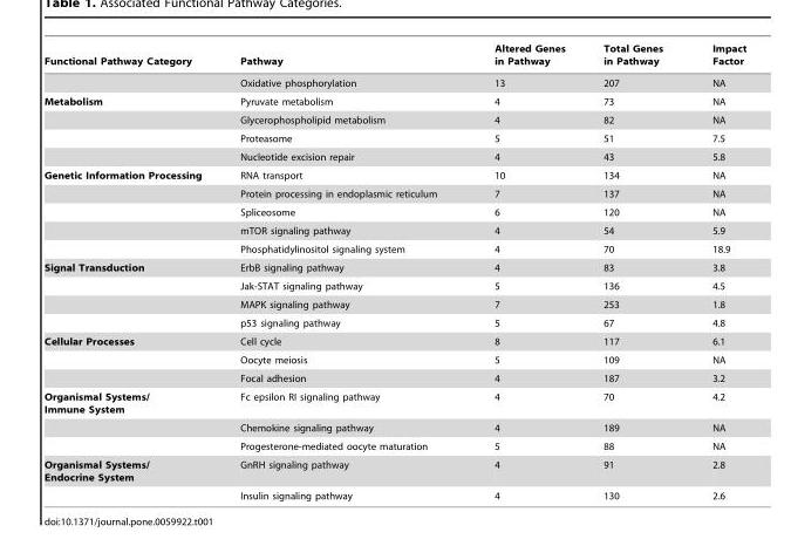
<table><thead><tr><td>Functional Pathway Category</td><td>Pathway</td><td>Altered Genes in Pathway</td><td>Total Genes in Pathway</td><td>Impact Factor</td></tr></thead><tbody><tr><td></td><td>Oxidative phosphorylation</td><td>13</td><td>207</td><td>NA</td></tr><tr><td rowspan="4">Metabolism</td><td>Pyruvate metabolism</td><td>4</td><td>73</td><td>NA</td></tr><tr><td>Glycerophospholipid metabolism</td><td>4</td><td>82</td><td>NA</td></tr><tr><td>Proteasome</td><td>5</td><td>51</td><td>7.5</td></tr><tr><td>Nucleotide excision repair</td><td>4</td><td>43</td><td>5.8</td></tr><tr><td rowspan="5">Genetic Information Processing</td><td>RNA transport</td><td>10</td><td>134</td><td>NA</td></tr><tr><td>Protein processing in endoplasmic reticulum</td><td>7</td><td>137</td><td>NA</td></tr><tr><td>Spliceosome</td><td>6</td><td>120</td><td>NA</td></tr><tr><td>mTOR signaling pathway</td><td>4</td><td>54</td><td>5.9</td></tr><tr><td>Phosphatidylinositol signaling system</td><td>4</td><td>70</td><td>18.9</td></tr><tr><td rowspan="4">Signal Transduction</td><td>ErbB signaling pathway</td><td>4</td><td>83</td><td>3.8</td></tr><tr><td>Jak-STAT signaling pathway</td><td>5</td><td>136</td><td>4.5</td></tr><tr><td>MAPK signaling pathway</td><td>7</td><td>253</td><td>1.8</td></tr><tr><td>p53 signaling pathway</td><td>5</td><td>67</td><td>4.8</td></tr><tr><td rowspan="3">Cellular Processes</td><td>Cell cycle</td><td>8</td><td>117</td><td>6.1</td></tr><tr><td>Oocyte meiosis</td><td>5</td><td>109</td><td>NA</td></tr><tr><td>Focal adhesion</td><td>4</td><td>187</td><td>3.2</td></tr><tr><td rowspan="3">Organismal Systems/ Immune System</td><td>Fc epsilon RI signaling pathway</td><td>4</td><td>70</td><td>4.2</td></tr><tr><td>Chemokine signaling pathway</td><td>4</td><td>189</td><td>NA</td></tr><tr><td>Progesterone-mediated oocyte maturation</td><td>5</td><td>88</td><td>NA</td></tr><tr><td rowspan="2">Organismal Systems/ Endocrine System</td><td>GnRH signaling pathway</td><td>4</td><td>91</td><td>2.8</td></tr><tr><td>Insulin signaling pathway</td><td>4</td><td>130</td><td>2.6</td></tr></tbody></table>